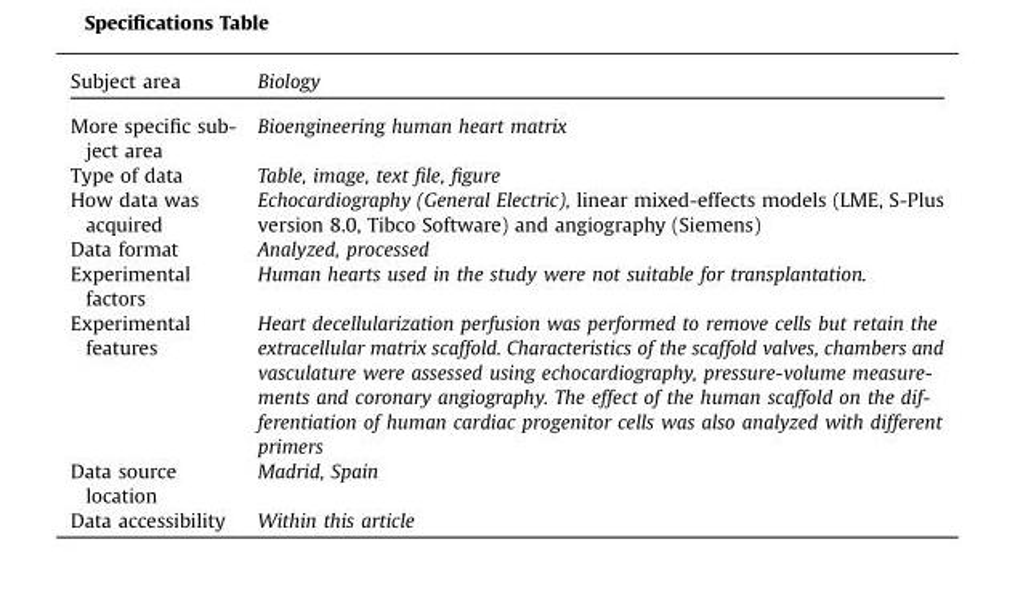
<table><tbody><tr><td>Subject area</td><td>Biology</td></tr><tr><td>More specific sub- ject area</td><td>Bioengineering human heart matrix</td></tr><tr><td>Type of data</td><td>Table, image, text file, figure</td></tr><tr><td>How data was acquired</td><td>Echocardiography (General Electric), linear mixed-effects models (LME, S-Plus version 8.0, Tibco Software) and angiography (Siemens)</td></tr><tr><td>Data format</td><td>Analyzed, processed</td></tr><tr><td>Experimental factors</td><td>Human hearts used in the study were not suitable for transplantation.</td></tr><tr><td>Experimental features</td><td>Heart decellularization perfusion was performed to remove cells but retain the extracellular matrix scaffold. Characteristics of the scaffold valves, chambers and vasculature were assessed using echocardiography, pressure-volume measure- ments and coronary angiography. The effect of the human scaffold on the dif- ferentiation of human cardiac progenitor cells was also analyzed with different primers</td></tr><tr><td>Data source location</td><td>Madrid, Spain</td></tr><tr><td>Data accessibility</td><td>Within this article</td></tr></tbody></table>